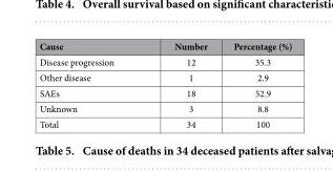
<table><thead><tr><td>Cause</td><td>Number</td><td>Percentage (%)</td></tr></thead><tbody><tr><td>Disease progression</td><td>12</td><td>35.3</td></tr><tr><td>Other disease</td><td>1</td><td>2.9</td></tr><tr><td>SAEs</td><td>18</td><td>52.9</td></tr><tr><td>Unknown</td><td>3</td><td>8.8</td></tr><tr><td>Total</td><td>34</td><td>100</td></tr></tbody></table>